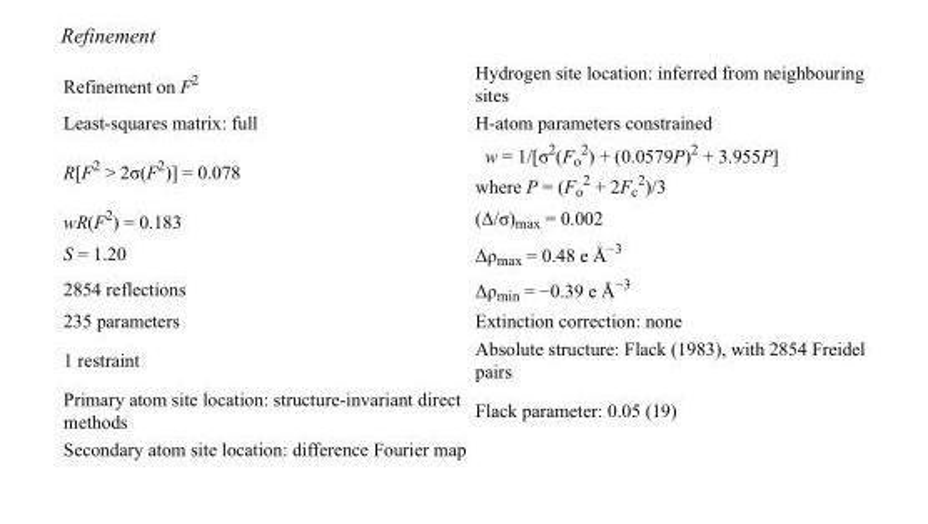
<table><tbody><tr><td>Refinement on F<sup>2</sup></td><td>Hydrogen site location: inferred from neighbouring sites</td></tr><tr><td>Least-squares matrix: full</td><td>H-atom parameters constrained</td></tr><tr><td>R[F<sup>2</sup> &gt; 2σ(F<sup>2</sup>)] = 0.078</td><td>w = 1/[σ<sup>2</sup>(F<sub>o</sub> <sup>2</sup>) + (0.0579P)<sup>2</sup> + 3.955P] where P = (F<sub>o</sub> <sup>2</sup> + 2F<sub>c</sub> <sup>2</sup>)/3</td></tr><tr><td>wR(F<sup>2</sup>) = 0.183</td><td>(Δ/σ)<sub>max</sub> = 0.002</td></tr><tr><td>S = 1.20</td><td>Δρ<sub>max</sub> = 0.48 e Å<sup>−3</sup></td></tr><tr><td>2854 reflections</td><td>Δρ<sub>min</sub> = −0.39 e Å<sup>−3</sup></td></tr><tr><td>235 parameters</td><td>Extinction correction: none</td></tr><tr><td>1 restraint</td><td>Absolute structure: Flack (1983), with 2854 Freidel pairs</td></tr><tr><td>Primary atom site location: structure-invariant direct methods</td><td>Flack parameter: 0.05 (19)</td></tr><tr><td>Secondary atom site location: difference Fourier map</td><td></td></tr></tbody></table>